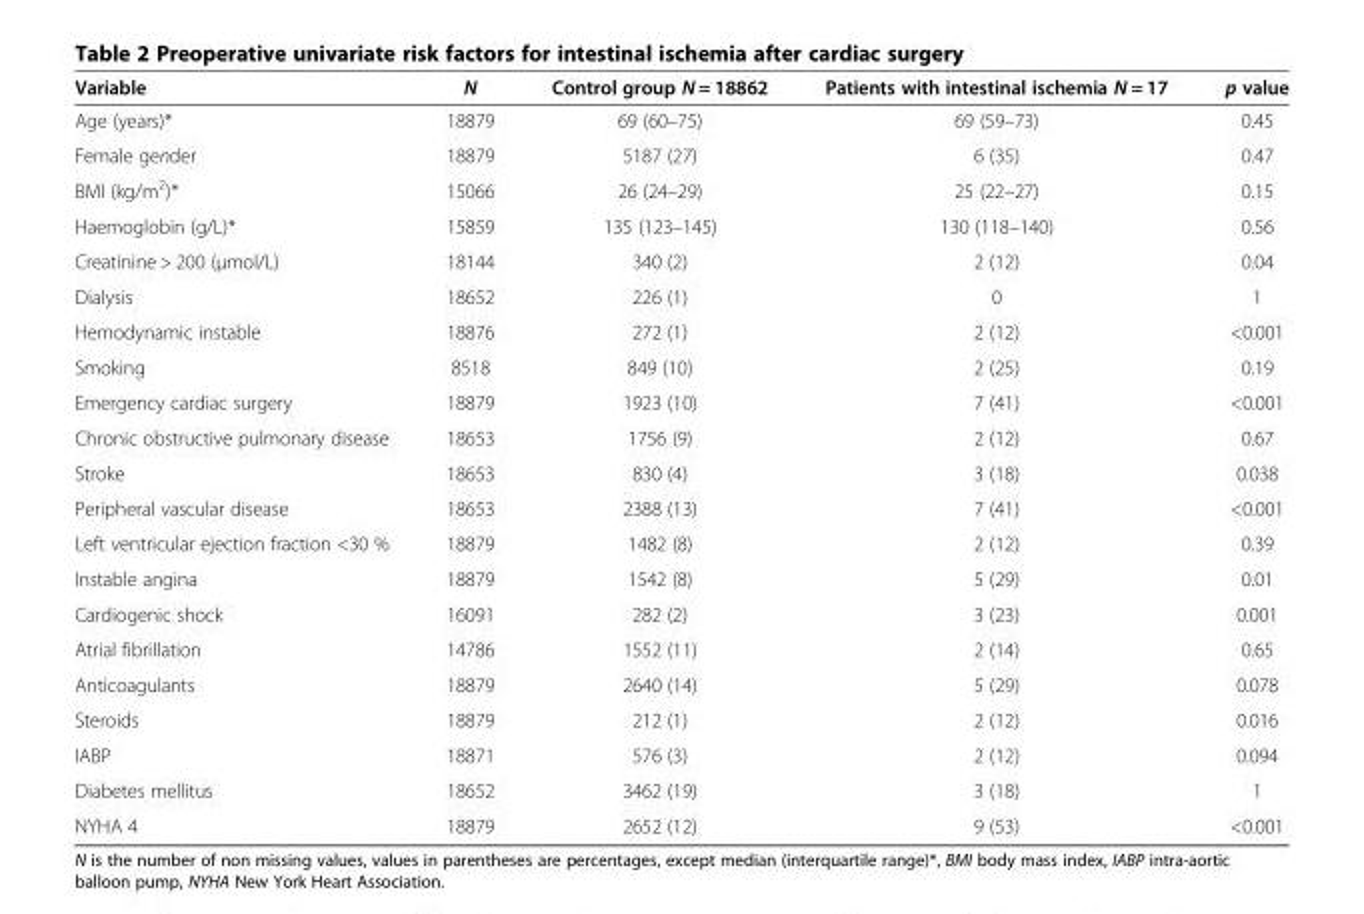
<table><thead><tr><td>Variable</td><td>N</td><td>Control group N = 18862</td><td>Patients with intestinal ischemia N = 17</td><td>p value</td></tr></thead><tbody><tr><td>Age (years)*</td><td>18879</td><td>69 (60–75)</td><td>69 (59–73)</td><td>0.45</td></tr><tr><td>Female gender</td><td>18879</td><td>5187 (27)</td><td>6 (35)</td><td>0.47</td></tr><tr><td>BMI (kg/m<sup>2</sup>)*</td><td>15066</td><td>26 (24–29)</td><td>25 (22–27)</td><td>0.15</td></tr><tr><td>Haemoglobin (g/L)*</td><td>15859</td><td>135 (123–145)</td><td>130 (118–140)</td><td>0.56</td></tr><tr><td>Creatinine &gt; 200 (μmol/L)</td><td>18144</td><td>340 (2)</td><td>2 (12)</td><td>0.04</td></tr><tr><td>Dialysis</td><td>18652</td><td>226 (1)</td><td>0</td><td>1</td></tr><tr><td>Hemodynamic instable</td><td>18876</td><td>272 (1)</td><td>2 (12)</td><td>&lt;0.001</td></tr><tr><td>Smoking</td><td>8518</td><td>849 (10)</td><td>2 (25)</td><td>0.19</td></tr><tr><td>Emergency cardiac surgery</td><td>18879</td><td>1923 (10)</td><td>7 (41)</td><td>&lt;0.001</td></tr><tr><td>Chronic obstructive pulmonary disease</td><td>18653</td><td>1756 (9)</td><td>2 (12)</td><td>0.67</td></tr><tr><td>Stroke</td><td>18653</td><td>830 (4)</td><td>3 (18)</td><td>0.038</td></tr><tr><td>Peripheral vascular disease</td><td>18653</td><td>2388 (13)</td><td>7 (41)</td><td>&lt;0.001</td></tr><tr><td>Left ventricular ejection fraction &lt;30 %</td><td>18879</td><td>1482 (8)</td><td>2 (12)</td><td>0.39</td></tr><tr><td>Instable angina</td><td>18879</td><td>1542 (8)</td><td>5 (29)</td><td>0.01</td></tr><tr><td>Cardiogenic shock</td><td>16091</td><td>282 (2)</td><td>3 (23)</td><td>0.001</td></tr><tr><td>Atrial fibrillation</td><td>14786</td><td>1552 (11)</td><td>2 (14)</td><td>0.65</td></tr><tr><td>Anticoagulants</td><td>18879</td><td>2640 (14)</td><td>5 (29)</td><td>0.078</td></tr><tr><td>Steroids</td><td>18879</td><td>212 (1)</td><td>2 (12)</td><td>0.016</td></tr><tr><td>IABP</td><td>18871</td><td>576 (3)</td><td>2 (12)</td><td>0.094</td></tr><tr><td>Diabetes mellitus</td><td>18652</td><td>3462 (19)</td><td>3 (18)</td><td>1</td></tr><tr><td>NYHA 4</td><td>18879</td><td>2652 (12)</td><td>9 (53)</td><td>&lt;0.001</td></tr></tbody></table>